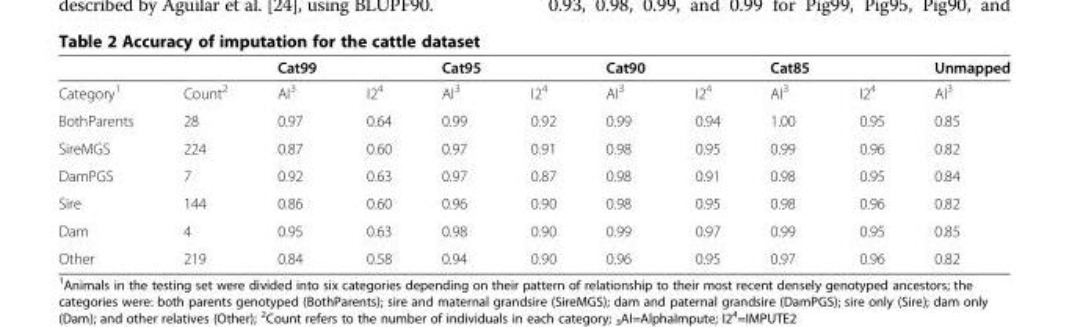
<table><thead><tr><td></td><td></td><td>Cat99</td><td></td><td>Cat95</td><td></td><td>Cat90</td><td></td><td>Cat85</td><td></td><td>Unmapped</td></tr></thead><tbody><tr><td>Category<sup>1</sup></td><td>Count<sup>2</sup></td><td>AI<sup>3</sup></td><td>I2<sup>4</sup></td><td>AI<sup>3</sup></td><td>I2<sup>4</sup></td><td>AI<sup>3</sup></td><td>I2<sup>4</sup></td><td>AI<sup>3</sup></td><td>I2<sup>4</sup></td><td>AI<sup>3</sup></td></tr><tr><td>BothParents</td><td>28</td><td>0.97</td><td>0.64</td><td>0.99</td><td>0.92</td><td>0.99</td><td>0.94</td><td>1.00</td><td>0.95</td><td>0.85</td></tr><tr><td>SireMGS</td><td>224</td><td>0.87</td><td>0.60</td><td>0.97</td><td>0.91</td><td>0.98</td><td>0.95</td><td>0.99</td><td>0.96</td><td>0.82</td></tr><tr><td>DamPGS</td><td>7</td><td>0.92</td><td>0.63</td><td>0.97</td><td>0.87</td><td>0.98</td><td>0.91</td><td>0.98</td><td>0.95</td><td>0.84</td></tr><tr><td>Sire</td><td>144</td><td>0.86</td><td>0.60</td><td>0.96</td><td>0.90</td><td>0.98</td><td>0.95</td><td>0.98</td><td>0.96</td><td>0.82</td></tr><tr><td>Dam</td><td>4</td><td>0.95</td><td>0.63</td><td>0.98</td><td>0.90</td><td>0.99</td><td>0.97</td><td>0.99</td><td>0.95</td><td>0.85</td></tr><tr><td>Other</td><td>219</td><td>0.84</td><td>0.58</td><td>0.94</td><td>0.90</td><td>0.96</td><td>0.95</td><td>0.97</td><td>0.96</td><td>0.82</td></tr></tbody></table>